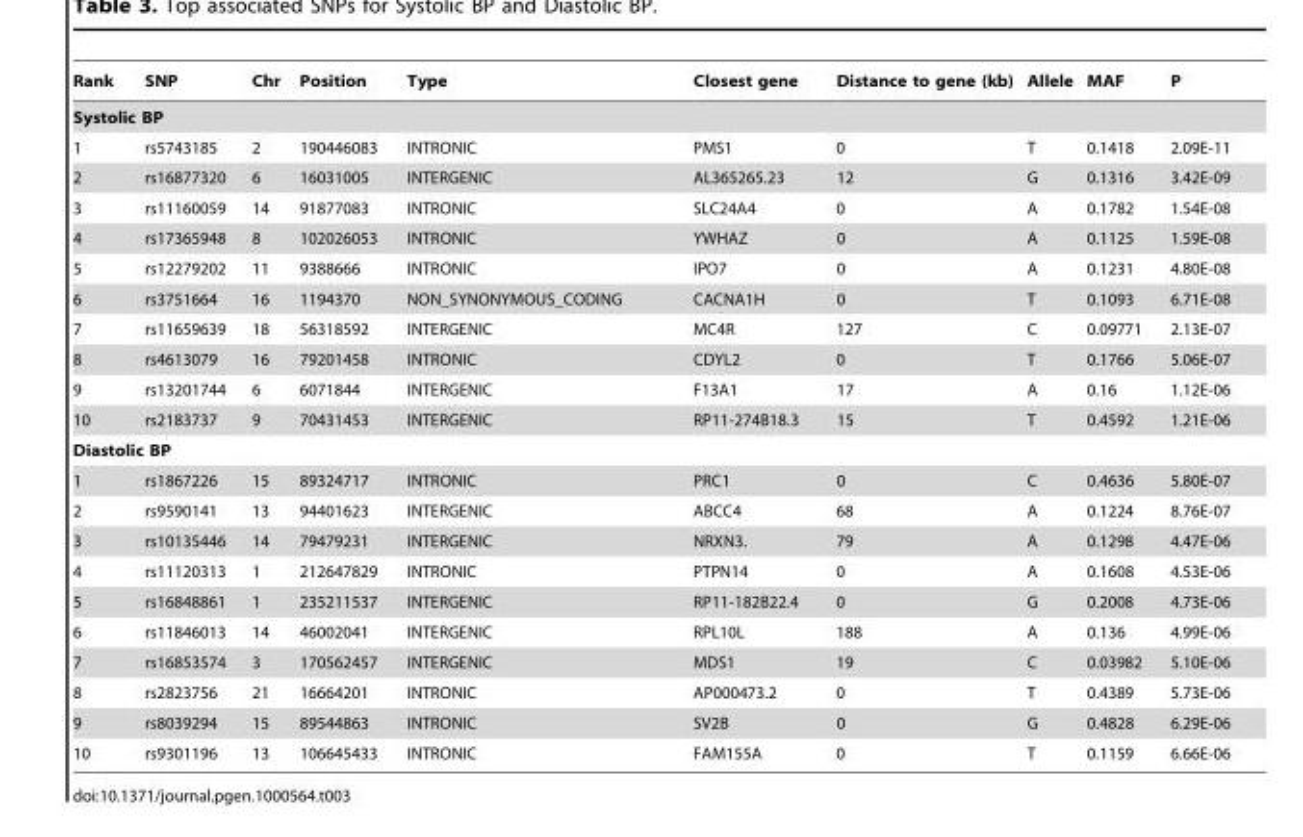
<table><thead><tr><td>Rank</td><td>SNP</td><td>Chr</td><td>Position</td><td>Type</td><td>Closest gene</td><td>Distance to gene (kb)</td><td>Allele</td><td>MAF</td><td>P</td></tr></thead><tbody><tr><td colspan="10">Systolic BP</td></tr><tr><td>1</td><td>rs5743185</td><td>2</td><td>190446083</td><td>INTRONIC</td><td>PMS1</td><td>0</td><td>T</td><td>0.1418</td><td>2.09E-11</td></tr><tr><td>2</td><td>rs16877320</td><td>6</td><td>16031005</td><td>INTERGENIC</td><td>AL365265.23</td><td>12</td><td>G</td><td>0.1316</td><td>3.42E-09</td></tr><tr><td>3</td><td>rs11160059</td><td>14</td><td>91877083</td><td>INTRONIC</td><td>SLC24A4</td><td>0</td><td>A</td><td>0.1782</td><td>1.54E-08</td></tr><tr><td>4</td><td>rs17365948</td><td>8</td><td>102026053</td><td>INTRONIC</td><td>YWHAZ</td><td>0</td><td>A</td><td>0.1125</td><td>1.59E-08</td></tr><tr><td>5</td><td>rs12279202</td><td>11</td><td>9388666</td><td>INTRONIC</td><td>IPO7</td><td>0</td><td>A</td><td>0.1231</td><td>4.80E-08</td></tr><tr><td>6</td><td>rs3751664</td><td>16</td><td>1194370</td><td>NON_SYNONYMOUS_CODING</td><td>CACNA1H</td><td>0</td><td>T</td><td>0.1093</td><td>6.71E-08</td></tr><tr><td>7</td><td>rs11659639</td><td>18</td><td>56318592</td><td>INTERGENIC</td><td>MC4R</td><td>127</td><td>C</td><td>0.09771</td><td>2.13E-07</td></tr><tr><td>8</td><td>rs4613079</td><td>16</td><td>79201458</td><td>INTRONIC</td><td>CDYL2</td><td>0</td><td>T</td><td>0.1766</td><td>5.06E-07</td></tr><tr><td>9</td><td>rs13201744</td><td>6</td><td>6071844</td><td>INTERGENIC</td><td>F13A1</td><td>17</td><td>A</td><td>0.16</td><td>1.12E-06</td></tr><tr><td>10</td><td>rs2183737</td><td>9</td><td>70431453</td><td>INTERGENIC</td><td>RP11-274B18.3</td><td>15</td><td>T</td><td>0.4592</td><td>1.21E-06</td></tr><tr><td colspan="10">Diastolic BP</td></tr><tr><td>1</td><td>rs1867226</td><td>15</td><td>89324717</td><td>INTRONIC</td><td>PRC1</td><td>0</td><td>C</td><td>0.4636</td><td>5.80E-07</td></tr><tr><td>2</td><td>rs9590141</td><td>13</td><td>94401623</td><td>INTERGENIC</td><td>ABCC4</td><td>68</td><td>A</td><td>0.1224</td><td>8.76E-07</td></tr><tr><td>3</td><td>rs10135446</td><td>14</td><td>79479231</td><td>INTERGENIC</td><td>NRXN3.</td><td>79</td><td>A</td><td>0.1298</td><td>4.47E-06</td></tr><tr><td>4</td><td>rs11120313</td><td>1</td><td>212647829</td><td>INTRONIC</td><td>PTPN14</td><td>0</td><td>A</td><td>0.1608</td><td>4.53E-06</td></tr><tr><td>5</td><td>rs16848861</td><td>1</td><td>235211537</td><td>INTERGENIC</td><td>RP11-182B22.4</td><td>0</td><td>G</td><td>0.2008</td><td>4.73E-06</td></tr><tr><td>6</td><td>rs11846013</td><td>14</td><td>46002041</td><td>INTERGENIC</td><td>RPL10L</td><td>188</td><td>A</td><td>0.136</td><td>4.99E-06</td></tr><tr><td>7</td><td>rs16853574</td><td>3</td><td>170562457</td><td>INTERGENIC</td><td>MDS1</td><td>19</td><td>C</td><td>0.03982</td><td>5.10E-06</td></tr><tr><td>8</td><td>rs2823756</td><td>21</td><td>16664201</td><td>INTRONIC</td><td>AP000473.2</td><td>0</td><td>T</td><td>0.4389</td><td>5.73E-06</td></tr><tr><td>9</td><td>rs8039294</td><td>15</td><td>89544863</td><td>INTRONIC</td><td>SV2B</td><td>0</td><td>G</td><td>0.4828</td><td>6.29E-06</td></tr><tr><td>10</td><td>rs9301196</td><td>13</td><td>106645433</td><td>INTRONIC</td><td>FAM155A</td><td>0</td><td>T</td><td>0.1159</td><td>6.66E-06</td></tr></tbody></table>